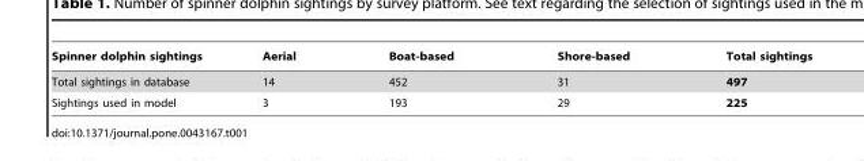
<table><thead><tr><td>Spinner dolphin sightings</td><td>Aerial</td><td>Boat-based</td><td>Shore-based</td><td>Total sightings</td></tr></thead><tbody><tr><td>Total sightings in database</td><td>14</td><td>452</td><td>31</td><td>497</td></tr><tr><td>Sightings used in model</td><td>3</td><td>193</td><td>29</td><td>225</td></tr></tbody></table>